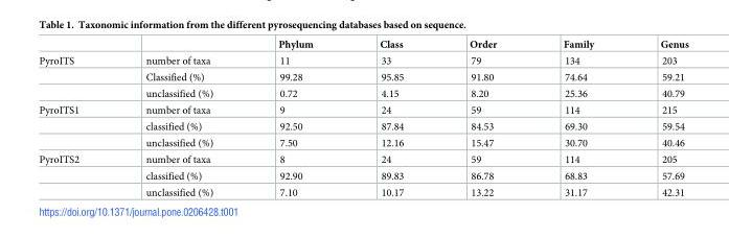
<table><thead><tr><td></td><td></td><td>Phylum</td><td>Class</td><td>Order</td><td>Family</td><td>Genus</td></tr></thead><tbody><tr><td rowspan="3">PyroITS</td><td>number of taxa</td><td>11</td><td>33</td><td>79</td><td>134</td><td>203</td></tr><tr><td>Classified (%)</td><td>99.28</td><td>95.85</td><td>91.80</td><td>74.64</td><td>59.21</td></tr><tr><td>unclassified (%)</td><td>0.72</td><td>4.15</td><td>8.20</td><td>25.36</td><td>40.79</td></tr><tr><td rowspan="3">PyroITS1</td><td>number of taxa</td><td>9</td><td>24</td><td>59</td><td>114</td><td>215</td></tr><tr><td>classified (%)</td><td>92.50</td><td>87.84</td><td>84.53</td><td>69.30</td><td>59.54</td></tr><tr><td>unclassified (%)</td><td>7.50</td><td>12.16</td><td>15.47</td><td>30.70</td><td>40.46</td></tr><tr><td rowspan="3">PyroITS2</td><td>number of taxa</td><td>8</td><td>24</td><td>59</td><td>114</td><td>205</td></tr><tr><td>classified (%)</td><td>92.90</td><td>89.83</td><td>86.78</td><td>68.83</td><td>57.69</td></tr><tr><td>unclassified (%)</td><td>7.10</td><td>10.17</td><td>13.22</td><td>31.17</td><td>42.31</td></tr></tbody></table>